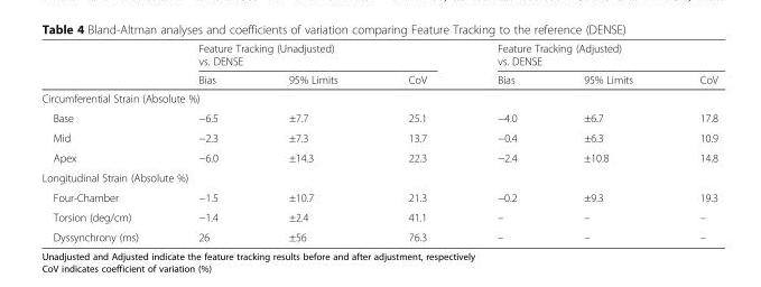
<table><thead><tr><td rowspan="2"></td><td colspan="3">Feature Tracking (Unadjusted) vs. DENSE</td><td colspan="3">Feature Tracking (Adjusted) vs. DENSE</td></tr><tr><td>Bias</td><td>95% Limits</td><td>CoV</td><td>Bias</td><td>95% Limits</td><td>CoV</td></tr></thead><tbody><tr><td colspan="7">Circumferential Strain (Absolute %)</td></tr><tr><td>Base</td><td>−6.5</td><td>±7.7</td><td>25.1</td><td>−4.0</td><td>±6.7</td><td>17.8</td></tr><tr><td>Mid</td><td>−2.3</td><td>±7.3</td><td>13.7</td><td>−0.4</td><td>±6.3</td><td>10.9</td></tr><tr><td>Apex</td><td>−6.0</td><td>±14.3</td><td>22.3</td><td>−2.4</td><td>±10.8</td><td>14.8</td></tr><tr><td colspan="7">Longitudinal Strain (Absolute %)</td></tr><tr><td>Four-Chamber</td><td>−1.5</td><td>±10.7</td><td>21.3</td><td>−0.2</td><td>±9.3</td><td>19.3</td></tr><tr><td>Torsion (deg/cm)</td><td>−1.4</td><td>±2.4</td><td>41.1</td><td>–</td><td>–</td><td>–</td></tr><tr><td>Dyssynchrony (ms)</td><td>26</td><td>±56</td><td>76.3</td><td>–</td><td>–</td><td>–</td></tr></tbody></table>